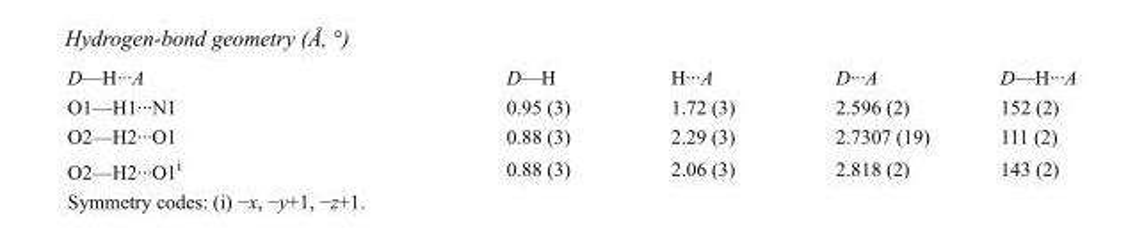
<table><tbody><tr><td>D—H···A</td><td>D—H</td><td>H···A</td><td>D···A</td><td>D—H···A</td></tr><tr><td>O1—H1···N1</td><td>0.95 (3)</td><td>1.72 (3)</td><td>2.596 (2)</td><td>152 (2)</td></tr><tr><td>O2—H2···O1</td><td>0.88 (3)</td><td>2.29 (3)</td><td>2.7307 (19)</td><td>111 (2)</td></tr><tr><td>O2—H2···O1<sup>i</sup></td><td>0.88 (3)</td><td>2.06 (3)</td><td>2.818 (2)</td><td>143 (2)</td></tr></tbody></table>